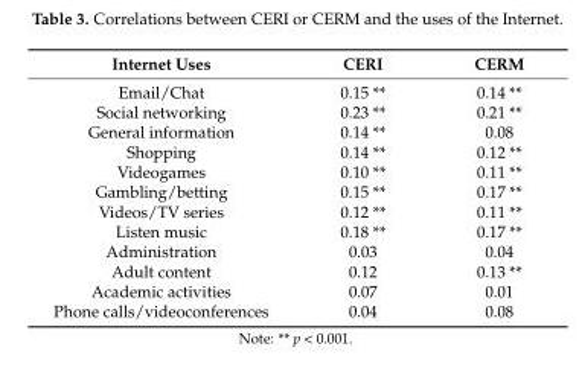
<table><thead><tr><td>Internet Uses</td><td>CERI</td><td>CERM</td></tr></thead><tbody><tr><td>Email/Chat</td><td>0.15 **</td><td>0.14 **</td></tr><tr><td>Social networking</td><td>0.23 **</td><td>0.21 **</td></tr><tr><td>General information</td><td>0.14 **</td><td>0.08</td></tr><tr><td>Shopping</td><td>0.14 **</td><td>0.12 **</td></tr><tr><td>Videogames</td><td>0.10 **</td><td>0.11 **</td></tr><tr><td>Gambling/betting</td><td>0.15 **</td><td>0.17 **</td></tr><tr><td>Videos/TV series</td><td>0.12 **</td><td>0.11 **</td></tr><tr><td>Listen music</td><td>0.18 **</td><td>0.17 **</td></tr><tr><td>Administration</td><td>0.03</td><td>0.04</td></tr><tr><td>Adult content</td><td>0.12</td><td>0.13 **</td></tr><tr><td>Academic activities</td><td>0.07</td><td>0.01</td></tr><tr><td>Phone calls/videoconferences</td><td>0.04</td><td>0.08</td></tr></tbody></table>